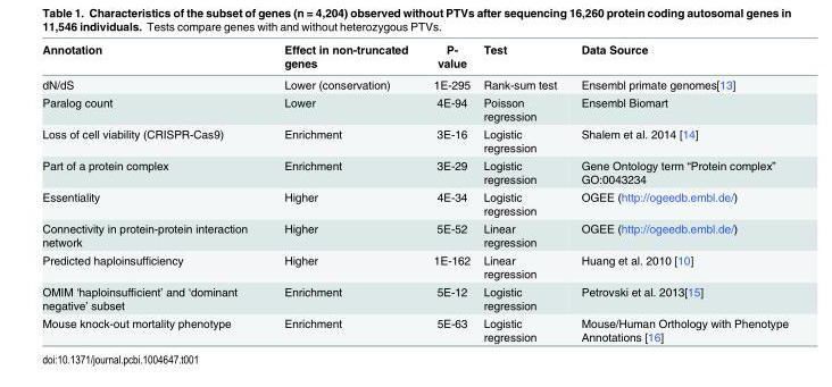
<table><thead><tr><td>Annotation</td><td>Effect in non-truncated genes</td><td>P- value</td><td>Test</td><td>Data Source</td></tr></thead><tbody><tr><td>dN/dS</td><td>Lower (conservation)</td><td>1E-295</td><td>Rank-sum test</td><td>Ensembl primate genomes[13]</td></tr><tr><td>Paralog count</td><td>Lower</td><td>4E-94</td><td>Poisson regression</td><td>Ensembl Biomart</td></tr><tr><td>Loss of cell viability (CRISPR-Cas9)</td><td>Enrichment</td><td>3E-16</td><td>Logistic regression</td><td>Shalem et al. 2014 [14]</td></tr><tr><td>Part of a protein complex</td><td>Enrichment</td><td>3E-29</td><td>Logistic regression</td><td>Gene Ontology term “Protein complex” GO:0043234</td></tr><tr><td>Essentiality</td><td>Higher</td><td>4E-34</td><td>Logistic regression</td><td>OGEE (http://ogeedb.embl.de/)</td></tr><tr><td>Connectivity in protein-protein interaction network</td><td>Higher</td><td>5E-52</td><td>Linear regression</td><td>OGEE (http://ogeedb.embl.de/)</td></tr><tr><td>Predicted haploinsufficiency</td><td>Higher</td><td>1E-162</td><td>Linear regression</td><td>Huang et al. 2010 [10]</td></tr><tr><td>OMIM ‘haploinsufficient’ and ‘dominant negative’ subset</td><td>Enrichment</td><td>5E-12</td><td>Logistic regression</td><td>Petrovski et al. 2013[15]</td></tr><tr><td>Mouse knock-out mortality phenotype</td><td>Enrichment</td><td>5E-63</td><td>Logistic regression</td><td>Mouse/Human Orthology with Phenotype Annotations [16]</td></tr></tbody></table>